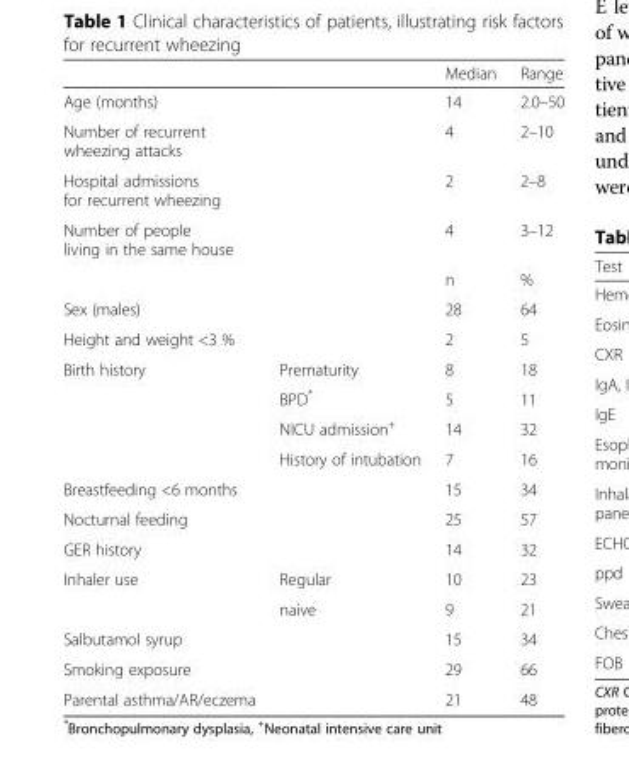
<table><thead><tr><td></td><td></td><td>Median</td><td>Range</td></tr></thead><tbody><tr><td>Age (months)</td><td></td><td>14</td><td>2.0–50</td></tr><tr><td>Number of recurrent wheezing attacks</td><td></td><td>4</td><td>2–10</td></tr><tr><td>Hospital admissions for recurrent wheezing</td><td></td><td>2</td><td>2–8</td></tr><tr><td rowspan="2">Number of people living in the same house</td><td></td><td>4</td><td>3–12</td></tr><tr><td></td><td>n</td><td>%</td></tr><tr><td>Sex (males)</td><td></td><td>28</td><td>64</td></tr><tr><td>Height and weight &lt;3 %</td><td></td><td>2</td><td>5</td></tr><tr><td rowspan="4">Birth history</td><td>Prematurity</td><td>8</td><td>18</td></tr><tr><td>BPD*</td><td>5</td><td>11</td></tr><tr><td>NICU admission<sup>+</sup></td><td>14</td><td>32</td></tr><tr><td>History of intubation</td><td>7</td><td>16</td></tr><tr><td>Breastfeeding &lt;6 months</td><td></td><td>15</td><td>34</td></tr><tr><td>Nocturnal feeding</td><td></td><td>25</td><td>57</td></tr><tr><td>GER history</td><td></td><td>14</td><td>32</td></tr><tr><td rowspan="2">Inhaler use</td><td>Regular</td><td>10</td><td>23</td></tr><tr><td>naive</td><td>9</td><td>21</td></tr><tr><td>Salbutamol syrup</td><td></td><td>15</td><td>34</td></tr><tr><td>Smoking exposure</td><td></td><td>29</td><td>66</td></tr><tr><td>Parental asthma/AR/eczema</td><td></td><td>21</td><td>48</td></tr></tbody></table>